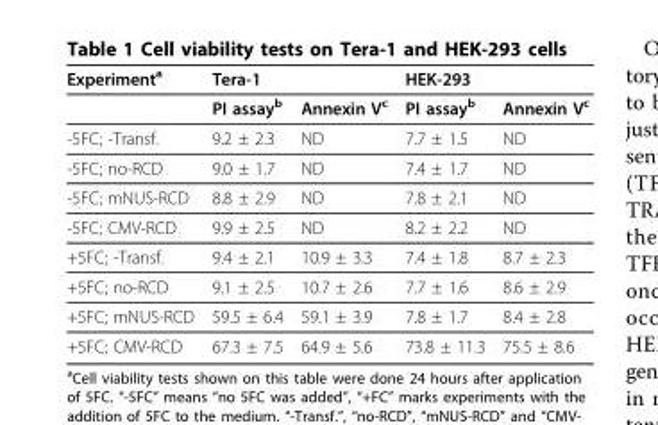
<table><thead><tr><td rowspan="2">Experiment<sup>a</sup></td><td colspan="2">Tera-1</td><td colspan="2">HEK-293</td></tr><tr><td>PI assay<sup>b</sup></td><td>Annexin V<sup>c</sup></td><td>PI assay<sup>b</sup></td><td>Annexin V<sup>c</sup></td></tr></thead><tbody><tr><td>-5FC; -Transf.</td><td>9.2 ± 2.3</td><td>ND</td><td>7.7 ± 1.5</td><td>ND</td></tr><tr><td>-5FC; no-RCD</td><td>9.0 ± 1.7</td><td>ND</td><td>7.4 ± 1.7</td><td>ND</td></tr><tr><td>-5FC; mNUS-RCD</td><td>8.8 ± 2.9</td><td>ND</td><td>7.8 ± 2.1</td><td>ND</td></tr><tr><td>-5FC; CMV-RCD</td><td>9.9 ± 2.5</td><td>ND</td><td>8.2 ± 2.2</td><td>ND</td></tr><tr><td>+5FC; -Transf.</td><td>9.4 ± 2.1</td><td>10.9 ± 3.3</td><td>7.4 ± 1.8</td><td>8.7 ± 2.3</td></tr><tr><td>+5FC; no-RCD</td><td>9.1 ± 2.5</td><td>10.7 ± 2.6</td><td>7.7 ± 1.6</td><td>8.6 ± 2.9</td></tr><tr><td>+5FC; mNUS-RCD</td><td>59.5 ± 6.4</td><td>59.1 ± 3.9</td><td>7.8 ± 1.7</td><td>8.4 ± 2.8</td></tr><tr><td>+5FC; CMV-RCD</td><td>67.3 ± 7.5</td><td>64.9 ± 5.6</td><td>73.8 ± 11.3</td><td>75.5 ± 8.6</td></tr></tbody></table>